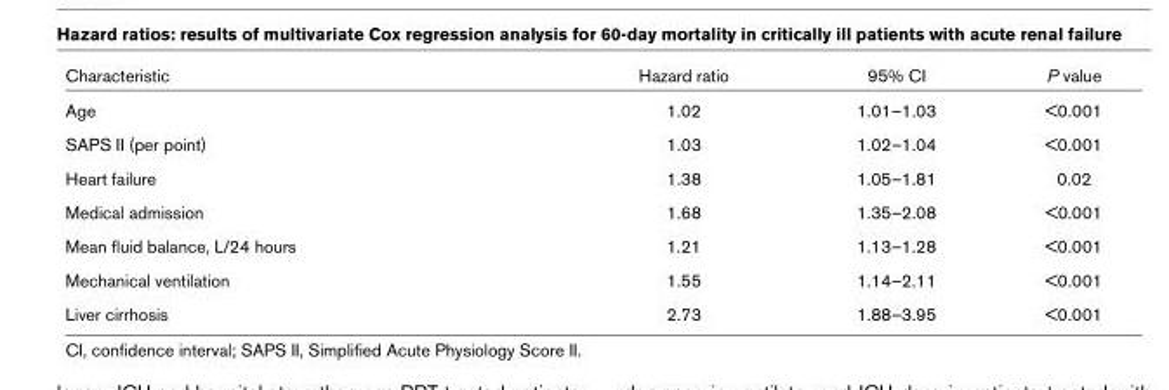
<table><thead><tr><td>Characteristic</td><td>Hazard ratio</td><td>95% CI</td><td>P value</td></tr></thead><tbody><tr><td>Age</td><td>1.02</td><td>1.01–1.03</td><td>&lt;0.001</td></tr><tr><td>SAPS II (per point)</td><td>1.03</td><td>1.02–1.04</td><td>&lt;0.001</td></tr><tr><td>Heart failure</td><td>1.38</td><td>1.05–1.81</td><td>0.02</td></tr><tr><td>Medical admission</td><td>1.68</td><td>1.35–2.08</td><td>&lt;0.001</td></tr><tr><td>Mean fluid balance, L/24 hours</td><td>1.21</td><td>1.13–1.28</td><td>&lt;0.001</td></tr><tr><td>Mechanical ventilation</td><td>1.55</td><td>1.14–2.11</td><td>&lt;0.001</td></tr><tr><td>Liver cirrhosis</td><td>2.73</td><td>1.88–3.95</td><td>&lt;0.001</td></tr></tbody></table>